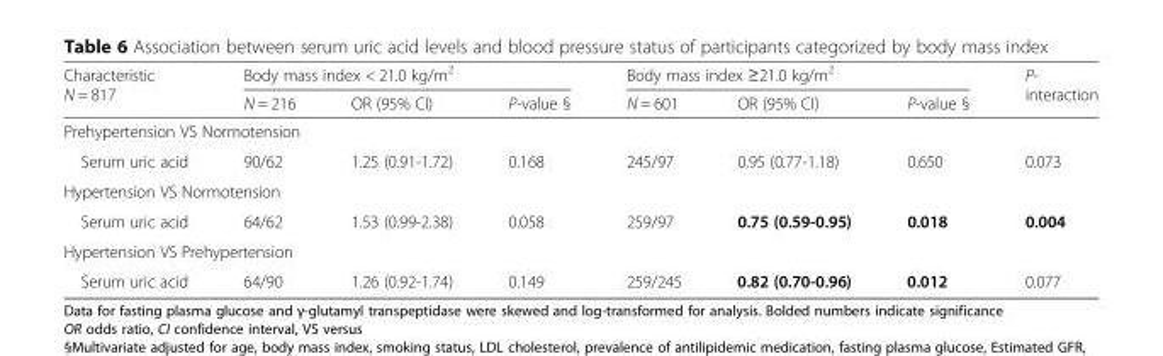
<table><thead><tr><td rowspan="2">Characteristic N = 817</td><td colspan="3">Body mass index &lt; 21.0 kg/m<sup>2</sup></td><td colspan="3">Body mass index ≥21.0 kg/m<sup>2</sup></td><td rowspan="2">P- interaction</td></tr><tr><td>N = 216</td><td>OR (95% CI)</td><td>P-value §</td><td>N = 601</td><td>OR (95% CI)</td><td>P-value §</td></tr></thead><tbody><tr><td colspan="8">Prehypertension VS Normotension</td></tr><tr><td>Serum uric acid</td><td>90/62</td><td>1.25 (0.91-1.72)</td><td>0.168</td><td>245/97</td><td>0.95 (0.77-1.18)</td><td>0.650</td><td>0.073</td></tr><tr><td colspan="8">Hypertension VS Normotension</td></tr><tr><td>Serum uric acid</td><td>64/62</td><td>1.53 (0.99-2.38)</td><td>0.058</td><td>259/97</td><td>0.75 (0.59-0.95)</td><td>0.018</td><td>0.004</td></tr><tr><td colspan="8">Hypertension VS Prehypertension</td></tr><tr><td>Serum uric acid</td><td>64/90</td><td>1.26 (0.92-1.74)</td><td>0.149</td><td>259/245</td><td>0.82 (0.70-0.96)</td><td>0.012</td><td>0.077</td></tr></tbody></table>